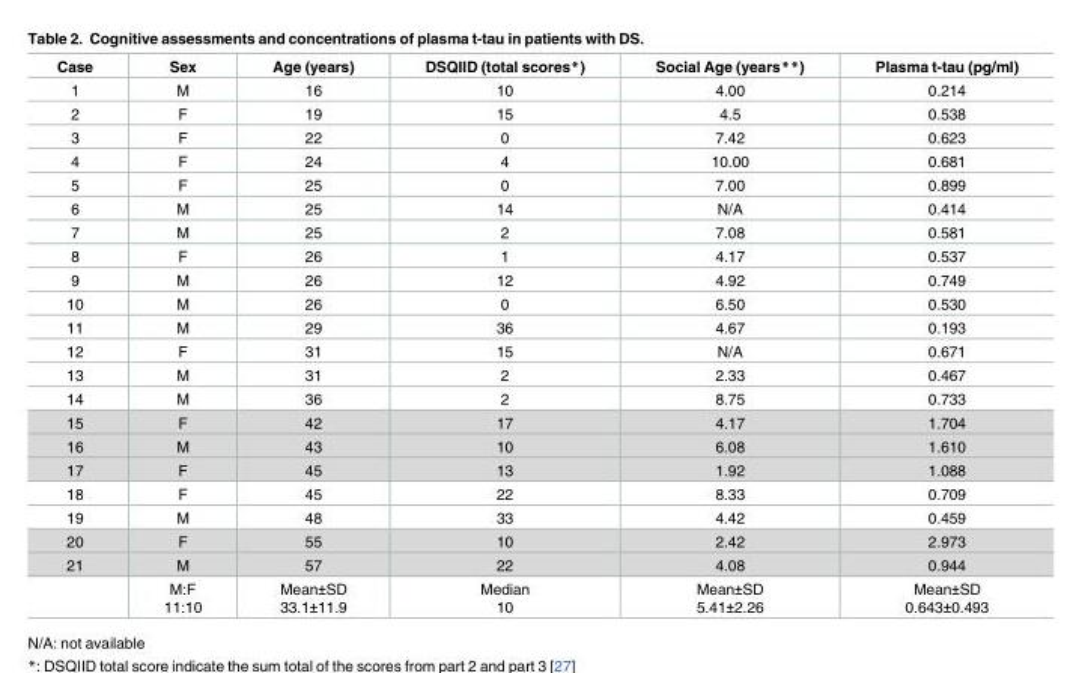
<table><thead><tr><td>Case</td><td>Sex</td><td>Age (years)</td><td>DSQIID (total scores*)</td><td>Social Age (years**)</td><td>Plasma t-tau (pg/ml)</td></tr></thead><tbody><tr><td>1</td><td>M</td><td>16</td><td>10</td><td>4.00</td><td>0.214</td></tr><tr><td>2</td><td>F</td><td>19</td><td>15</td><td>4.5</td><td>0.538</td></tr><tr><td>3</td><td>F</td><td>22</td><td>0</td><td>7.42</td><td>0.623</td></tr><tr><td>4</td><td>F</td><td>24</td><td>4</td><td>10.00</td><td>0.681</td></tr><tr><td>5</td><td>F</td><td>25</td><td>0</td><td>7.00</td><td>0.899</td></tr><tr><td>6</td><td>M</td><td>25</td><td>14</td><td>N/A</td><td>0.414</td></tr><tr><td>7</td><td>M</td><td>25</td><td>2</td><td>7.08</td><td>0.581</td></tr><tr><td>8</td><td>F</td><td>26</td><td>1</td><td>4.17</td><td>0.537</td></tr><tr><td>9</td><td>M</td><td>26</td><td>12</td><td>4.92</td><td>0.749</td></tr><tr><td>10</td><td>M</td><td>26</td><td>0</td><td>6.50</td><td>0.530</td></tr><tr><td>11</td><td>M</td><td>29</td><td>36</td><td>4.67</td><td>0.193</td></tr><tr><td>12</td><td>F</td><td>31</td><td>15</td><td>N/A</td><td>0.671</td></tr><tr><td>13</td><td>M</td><td>31</td><td>2</td><td>2.33</td><td>0.467</td></tr><tr><td>14</td><td>M</td><td>36</td><td>2</td><td>8.75</td><td>0.733</td></tr><tr><td>15</td><td>F</td><td>42</td><td>17</td><td>4.17</td><td>1.704</td></tr><tr><td>16</td><td>M</td><td>43</td><td>10</td><td>6.08</td><td>1.610</td></tr><tr><td>17</td><td>F</td><td>45</td><td>13</td><td>1.92</td><td>1.088</td></tr><tr><td>18</td><td>F</td><td>45</td><td>22</td><td>8.33</td><td>0.709</td></tr><tr><td>19</td><td>M</td><td>48</td><td>33</td><td>4.42</td><td>0.459</td></tr><tr><td>20</td><td>F</td><td>55</td><td>10</td><td>2.42</td><td>2.973</td></tr><tr><td rowspan="2">21</td><td>M</td><td>57</td><td>22</td><td>4.08</td><td>0.944</td></tr><tr><td>M:F 11:10</td><td>Mean±SD 33.1±11.9</td><td>Median 10</td><td>Mean±SD 5.41±2.26</td><td>Mean±SD 0.643±0.493</td></tr></tbody></table>